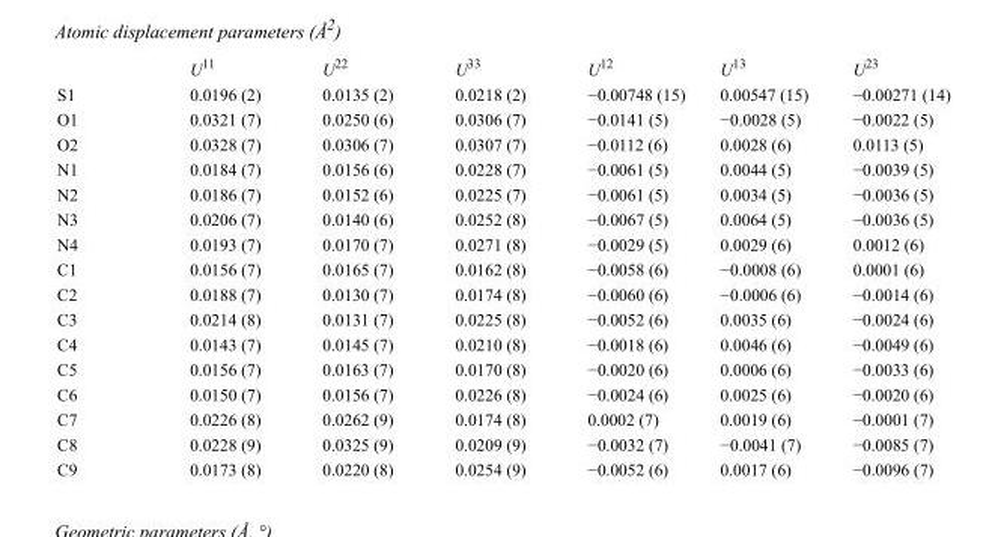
<table><thead><tr><td></td><td>U<sup>11</sup></td><td>U<sup>22</sup></td><td>U<sup>33</sup></td><td>U<sup>12</sup></td><td>U<sup>13</sup></td><td>U<sup>23</sup></td></tr></thead><tbody><tr><td>S1</td><td>0.0196 (2)</td><td>0.0135 (2)</td><td>0.0218 (2)</td><td>−0.00748 (15)</td><td>0.00547 (15)</td><td>−0.00271 (14)</td></tr><tr><td>O1</td><td>0.0321 (7)</td><td>0.0250 (6)</td><td>0.0306 (7)</td><td>−0.0141 (5)</td><td>−0.0028 (5)</td><td>−0.0022 (5)</td></tr><tr><td>O2</td><td>0.0328 (7)</td><td>0.0306 (7)</td><td>0.0307 (7)</td><td>−0.0112 (6)</td><td>0.0028 (6)</td><td>0.0113 (5)</td></tr><tr><td>N1</td><td>0.0184 (7)</td><td>0.0156 (6)</td><td>0.0228 (7)</td><td>−0.0061 (5)</td><td>0.0044 (5)</td><td>−0.0039 (5)</td></tr><tr><td>N2</td><td>0.0186 (7)</td><td>0.0152 (6)</td><td>0.0225 (7)</td><td>−0.0061 (5)</td><td>0.0034 (5)</td><td>−0.0036 (5)</td></tr><tr><td>N3</td><td>0.0206 (7)</td><td>0.0140 (6)</td><td>0.0252 (8)</td><td>−0.0067 (5)</td><td>0.0064 (5)</td><td>−0.0036 (5)</td></tr><tr><td>N4</td><td>0.0193 (7)</td><td>0.0170 (7)</td><td>0.0271 (8)</td><td>−0.0029 (5)</td><td>0.0029 (6)</td><td>0.0012 (6)</td></tr><tr><td>C1</td><td>0.0156 (7)</td><td>0.0165 (7)</td><td>0.0162 (8)</td><td>−0.0058 (6)</td><td>−0.0008 (6)</td><td>0.0001 (6)</td></tr><tr><td>C2</td><td>0.0188 (7)</td><td>0.0130 (7)</td><td>0.0174 (8)</td><td>−0.0060 (6)</td><td>−0.0006 (6)</td><td>−0.0014 (6)</td></tr><tr><td>C3</td><td>0.0214 (8)</td><td>0.0131 (7)</td><td>0.0225 (8)</td><td>−0.0052 (6)</td><td>0.0035 (6)</td><td>−0.0024 (6)</td></tr><tr><td>C4</td><td>0.0143 (7)</td><td>0.0145 (7)</td><td>0.0210 (8)</td><td>−0.0018 (6)</td><td>0.0046 (6)</td><td>−0.0049 (6)</td></tr><tr><td>C5</td><td>0.0156 (7)</td><td>0.0163 (7)</td><td>0.0170 (8)</td><td>−0.0020 (6)</td><td>0.0006 (6)</td><td>−0.0033 (6)</td></tr><tr><td>C6</td><td>0.0150 (7)</td><td>0.0156 (7)</td><td>0.0226 (8)</td><td>−0.0024 (6)</td><td>0.0025 (6)</td><td>−0.0020 (6)</td></tr><tr><td>C7</td><td>0.0226 (8)</td><td>0.0262 (9)</td><td>0.0174 (8)</td><td>0.0002 (7)</td><td>0.0019 (6)</td><td>−0.0001 (7)</td></tr><tr><td>C8</td><td>0.0228 (9)</td><td>0.0325 (9)</td><td>0.0209 (9)</td><td>−0.0032 (7)</td><td>−0.0041 (7)</td><td>−0.0085 (7)</td></tr><tr><td>C9</td><td>0.0173 (8)</td><td>0.0220 (8)</td><td>0.0254 (9)</td><td>−0.0052 (6)</td><td>0.0017 (6)</td><td>−0.0096 (7)</td></tr></tbody></table>